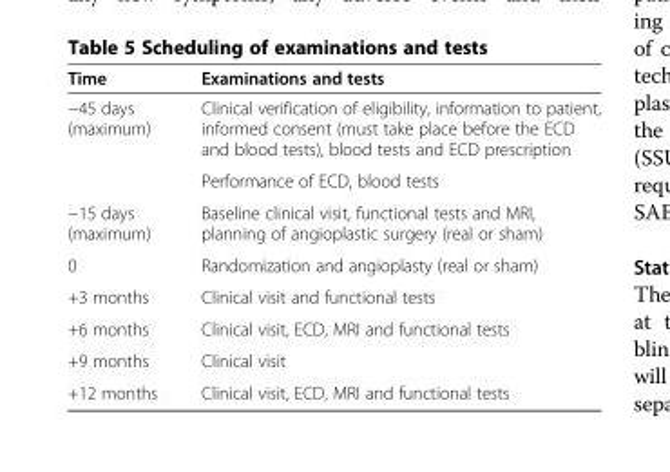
<table><thead><tr><td>Time</td><td>Examinations and tests</td></tr></thead><tbody><tr><td rowspan="2">−45 days (maximum)</td><td>Clinical verification of eligibility, information to patient, informed consent (must take place before the ECD and blood tests), blood tests and ECD prescription</td></tr><tr><td>Performance of ECD, blood tests</td></tr><tr><td>−15 days (maximum)</td><td>Baseline clinical visit, functional tests and MRI, planning of angioplastic surgery (real or sham)</td></tr><tr><td>0</td><td>Randomization and angioplasty (real or sham)</td></tr><tr><td>+3 months</td><td>Clinical visit and functional tests</td></tr><tr><td>+6 months</td><td>Clinical visit, ECD, MRI and functional tests</td></tr><tr><td>+9 months</td><td>Clinical visit</td></tr><tr><td>+12 months</td><td>Clinical visit, ECD, MRI and functional tests</td></tr></tbody></table>